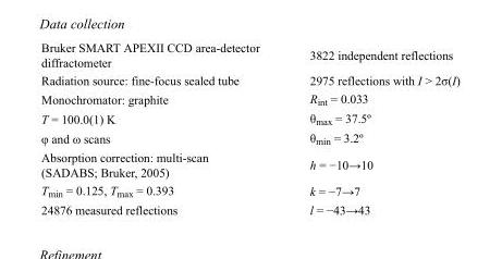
<table><tbody><tr><td>Bruker SMART APEXII CCD area-detector diffractometer</td><td>3822 independent reflections</td></tr><tr><td>Radiation source: fine-focus sealed tube</td><td>2975 reflections with I &gt; 2σ(I)</td></tr><tr><td>Monochromator: graphite</td><td>R<sub>int</sub> = 0.033</td></tr><tr><td>T = 100.0(1) K</td><td>θ<sub>max</sub> = 37.5º</td></tr><tr><td>φ and ω scans</td><td>θ<sub>min</sub> = 3.2º</td></tr><tr><td>Absorption correction: multi-scan (SADABS; Bruker, 2005)</td><td>h = −10→10</td></tr><tr><td>T<sub>min</sub> = 0.125, T<sub>max</sub> = 0.393</td><td>k = −7→7</td></tr><tr><td>24876 measured reflections</td><td>l = −43→43</td></tr></tbody></table>